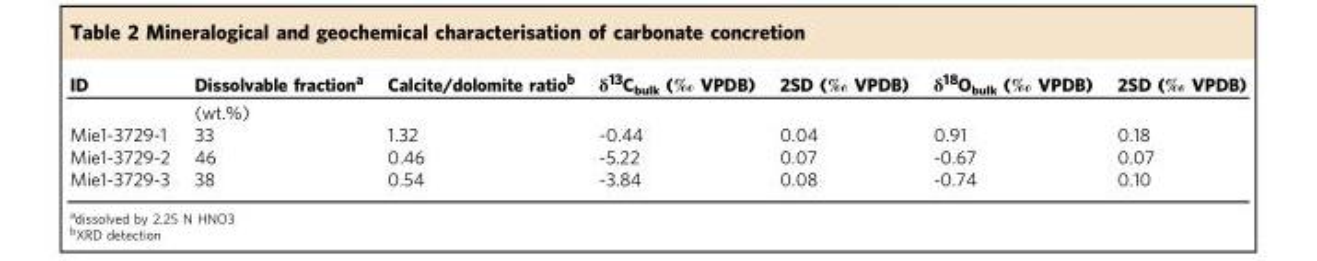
<table><thead><tr><td>ID</td><td>Dissolvable fraction<sup>a</sup></td><td>Calcite/dolomite ratio<sup>b</sup></td><td>δ<sup>13</sup>C<sub>bulk</sub> (‰ VPDB)</td><td>2SD (‰ VPDB)</td><td>δ<sup>18</sup>O<sub>bulk</sub> (‰ VPDB)</td><td>2SD (‰ VPDB)</td></tr></thead><tbody><tr><td></td><td>(wt.%)</td><td></td><td></td><td></td><td></td><td></td></tr><tr><td>Mie1-3729-1</td><td>33</td><td>1.32</td><td>-0.44</td><td>0.04</td><td>0.91</td><td>0.18</td></tr><tr><td>Mie1-3729-2</td><td>46</td><td>0.46</td><td>-5.22</td><td>0.07</td><td>-0.67</td><td>0.07</td></tr><tr><td>Mie1-3729-3</td><td>38</td><td>0.54</td><td>-3.84</td><td>0.08</td><td>-0.74</td><td>0.10</td></tr></tbody></table>